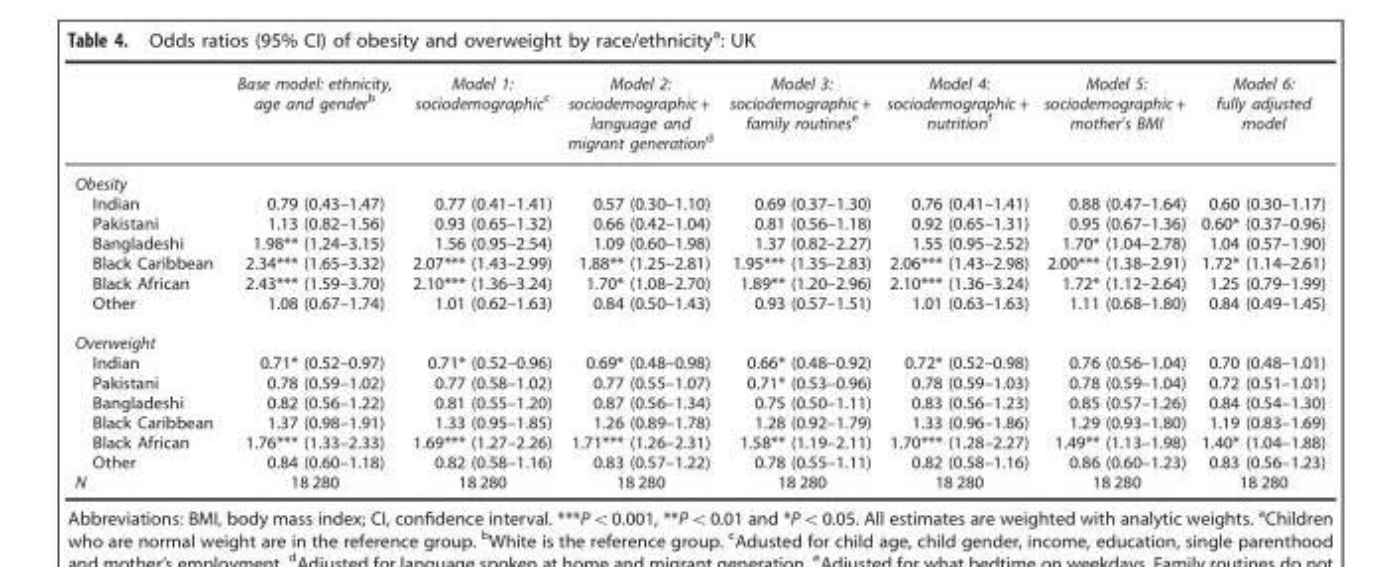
<table><thead><tr><td></td><td>Base model: ethnicity, age and gender<sup>b</sup></td><td>Model 1: sociodemographic<sup>c</sup></td><td>Model 2: sociodemographic + language and migrant generation<sup>d</sup></td><td>Model 3: sociodemographic + family routines<sup>e</sup></td><td>Model 4: sociodemographic + nutrition<sup>f</sup></td><td>Model 5: sociodemographic + mother’s BMI</td><td>Model 6: fully adjusted model</td></tr></thead><tbody><tr><td colspan="8">Obesity</td></tr><tr><td>Indian</td><td>0.79 (0.43–1.47)</td><td>0.77 (0.41–1.41)</td><td>0.57 (0.30–1.10)</td><td>0.69 (0.37–1.30)</td><td>0.76 (0.41–1.41)</td><td>0.88 (0.47–1.64)</td><td>0.60 (0.30–1.17)</td></tr><tr><td>Pakistani</td><td>1.13 (0.82–1.56)</td><td>0.93 (0.65–1.32)</td><td>0.66 (0.42–1.04)</td><td>0.81 (0.56–1.18)</td><td>0.92 (0.65–1.31)</td><td>0.95 (0.67–1.36)</td><td>0.60* (0.37–0.96)</td></tr><tr><td>Bangladeshi</td><td>1.98** (1.24–3.15)</td><td>1.56 (0.95–2.54)</td><td>1.09 (0.60–1.98)</td><td>1.37 (0.82–2.27)</td><td>1.55 (0.95–2.52)</td><td>1.70* (1.04–2.78)</td><td>1.04 (0.57–1.90)</td></tr><tr><td>Black Caribbean</td><td>2.34*** (1.65–3.32)</td><td>2.07*** (1.43–2.99)</td><td>1.88** (1.25–2.81)</td><td>1.95*** (1.35–2.83)</td><td>2.06*** (1.43–2.98)</td><td>2.00*** (1.38–2.91)</td><td>1.72* (1.14–2.61)</td></tr><tr><td>Black African</td><td>2.43*** (1.59–3.70)</td><td>2.10*** (1.36–3.24)</td><td>1.70* (1.08–2.70)</td><td>1.89** (1.20–2.96)</td><td>2.10*** (1.36–3.24)</td><td>1.72* (1.12–2.64)</td><td>1.25 (0.79–1.99)</td></tr><tr><td>Other</td><td>1.08 (0.67–1.74)</td><td>1.01 (0.62–1.63)</td><td>0.84 (0.50–1.43)</td><td>0.93 (0.57–1.51)</td><td>1.01 (0.63–1.63)</td><td>1.11 (0.68–1.80)</td><td>0.84 (0.49–1.45)</td></tr><tr><td colspan="8">Overweight</td></tr><tr><td>Indian</td><td>0.71* (0.52–0.97)</td><td>0.71* (0.52–0.96)</td><td>0.69* (0.48–0.98)</td><td>0.66* (0.48–0.92)</td><td>0.72* (0.52–0.98)</td><td>0.76 (0.56–1.04)</td><td>0.70 (0.48–1.01)</td></tr><tr><td>Pakistani</td><td>0.78 (0.59–1.02)</td><td>0.77 (0.58–1.02)</td><td>0.77 (0.55–1.07)</td><td>0.71* (0.53–0.96)</td><td>0.78 (0.59–1.03)</td><td>0.78 (0.59–1.04)</td><td>0.72 (0.51–1.01)</td></tr><tr><td>Bangladeshi</td><td>0.82 (0.56–1.22)</td><td>0.81 (0.55–1.20)</td><td>0.87 (0.56–1.34)</td><td>0.75 (0.50–1.11)</td><td>0.83 (0.56–1.23)</td><td>0.85 (0.57–1.26)</td><td>0.84 (0.54–1.30)</td></tr><tr><td>Black Caribbean</td><td>1.37 (0.98–1.91)</td><td>1.33 (0.95–1.85)</td><td>1.26 (0.89–1.78)</td><td>1.28 (0.92–1.79)</td><td>1.33 (0.96–1.86)</td><td>1.29 (0.93–1.80)</td><td>1.19 (0.83–1.69)</td></tr><tr><td>Black African</td><td>1.76*** (1.33–2.33)</td><td>1.69*** (1.27–2.26)</td><td>1.71*** (1.26–2.31)</td><td>1.58** (1.19–2.11)</td><td>1.70*** (1.28–2.27)</td><td>1.49** (1.13–1.98)</td><td>1.40* (1.04–1.88)</td></tr><tr><td>Other</td><td>0.84 (0.60–1.18)</td><td>0.82 (0.58–1.16)</td><td>0.83 (0.57–1.22)</td><td>0.78 (0.55–1.11)</td><td>0.82 (0.58–1.16)</td><td>0.86 (0.60–1.23)</td><td>0.83 (0.56–1.23)</td></tr><tr><td>N</td><td>18 280</td><td>18 280</td><td>18 280</td><td>18 280</td><td>18 280</td><td>18 280</td><td>18 280</td></tr></tbody></table>